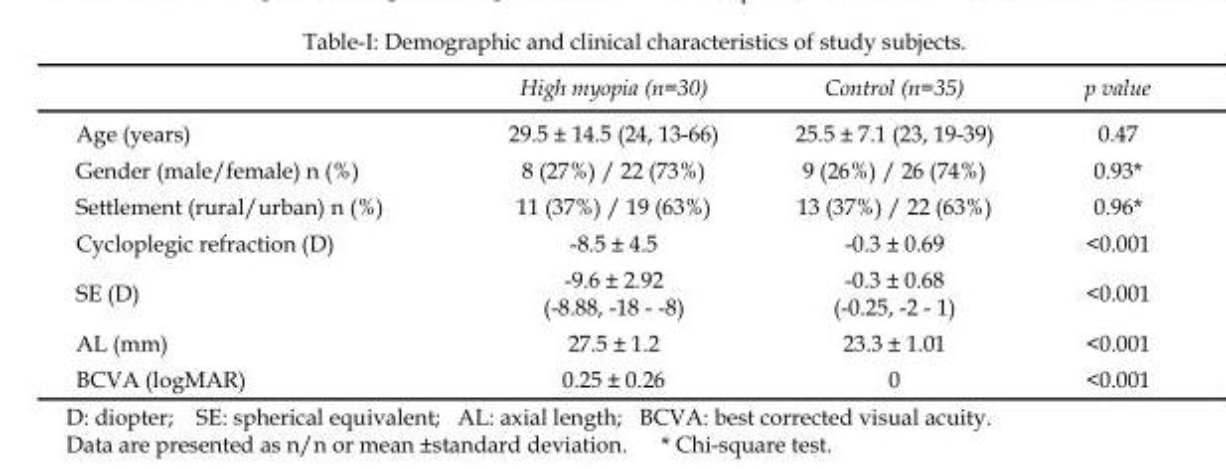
<table><thead><tr><td></td><td>High myopia (n=30)</td><td>Control (n=35)</td><td>p value</td></tr></thead><tbody><tr><td>Age (years)</td><td>29.5 ± 14.5 (24, 13-66)</td><td>25.5 ± 7.1 (23, 19-39)</td><td>0.47</td></tr><tr><td>Gender (male/female) n (%)</td><td>8 (27%) / 22 (73%)</td><td>9 (26%) / 26 (74%)</td><td>0.93*</td></tr><tr><td>Settlement (rural/urban) n (%)</td><td>11 (37%) / 19 (63%)</td><td>13 (37%) / 22 (63%)</td><td>0.96*</td></tr><tr><td>Cycloplegic refraction (D)</td><td>-8.5 ± 4.5</td><td>-0.3 ± 0.69</td><td>&lt;0.001</td></tr><tr><td>SE (D)</td><td>-9.6 ± 2.92 (-8.88, -18 - -8)</td><td>-0.3 ± 0.68 (-0.25, -2 - 1)</td><td>&lt;0.001</td></tr><tr><td>AL (mm)</td><td>27.5 ± 1.2</td><td>23.3 ± 1.01</td><td>&lt;0.001</td></tr><tr><td>BCVA (logMAR)</td><td>0.25 ± 0.26</td><td>0</td><td>&lt;0.001</td></tr></tbody></table>